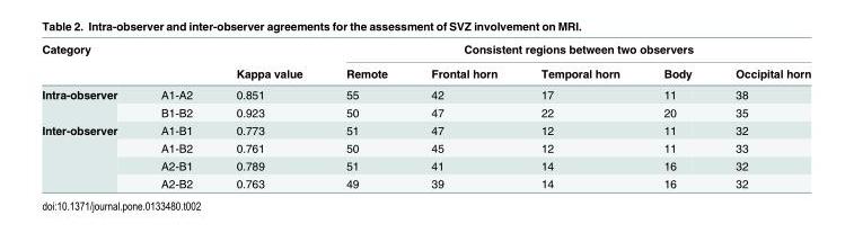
<table><thead><tr><td rowspan="2">Category</td><td rowspan="2"></td><td rowspan="2">Kappa value</td><td colspan="5">Consistent regions between two observers</td></tr><tr><td>Remote</td><td>Frontal horn</td><td>Temporal horn</td><td>Body</td><td>Occipital horn</td></tr></thead><tbody><tr><td rowspan="2">Intra-observer</td><td>A1-A2</td><td>0.851</td><td>55</td><td>42</td><td>17</td><td>11</td><td>38</td></tr><tr><td>B1-B2</td><td>0.923</td><td>50</td><td>47</td><td>22</td><td>20</td><td>35</td></tr><tr><td rowspan="4">Inter-observer</td><td>A1-B1</td><td>0.773</td><td>51</td><td>47</td><td>12</td><td>11</td><td>32</td></tr><tr><td>A1-B2</td><td>0.761</td><td>50</td><td>45</td><td>12</td><td>11</td><td>33</td></tr><tr><td>A2-B1</td><td>0.789</td><td>51</td><td>41</td><td>14</td><td>16</td><td>32</td></tr><tr><td>A2-B2</td><td>0.763</td><td>49</td><td>39</td><td>14</td><td>16</td><td>32</td></tr></tbody></table>